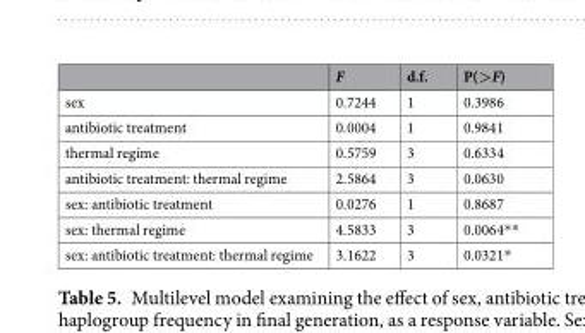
<table><thead><tr><td></td><td>F</td><td>d.f.</td><td>P(&gt;F)</td></tr></thead><tbody><tr><td>sex</td><td>0.7244</td><td>1</td><td>0.3986</td></tr><tr><td>antibiotic treatment</td><td>0.0004</td><td>1</td><td>0.9841</td></tr><tr><td>thermal regime</td><td>0.5759</td><td>3</td><td>0.6334</td></tr><tr><td>antibiotic treatment: thermal regime</td><td>2.5864</td><td>3</td><td>0.0630</td></tr><tr><td>sex: antibiotic treatment</td><td>0.0276</td><td>1</td><td>0.8687</td></tr><tr><td>sex: thermal regime</td><td>4.5833</td><td>3</td><td>0.0064**</td></tr><tr><td>sex: antibiotic treatment: thermal regime</td><td>3.1622</td><td>3</td><td>0.0321*</td></tr></tbody></table>